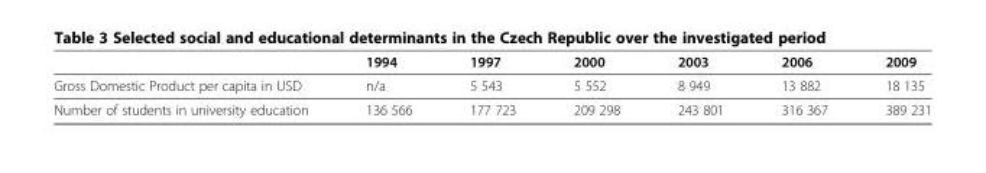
<table><thead><tr><td></td><td>1994</td><td>1997</td><td>2000</td><td>2003</td><td>2006</td><td>2009</td></tr></thead><tbody><tr><td>Gross Domestic Product per capita in USD</td><td>n/a</td><td>5 543</td><td>5 552</td><td>8 949</td><td>13 882</td><td>18 135</td></tr><tr><td>Number of students in university education</td><td>136 566</td><td>177 723</td><td>209 298</td><td>243 801</td><td>316 367</td><td>389 231</td></tr></tbody></table>